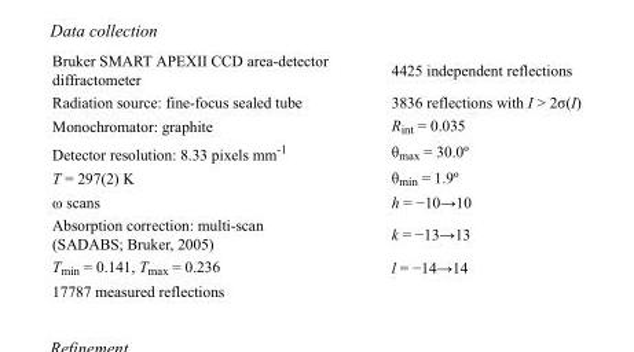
<table><tbody><tr><td>Bruker SMART APEXII CCD area-detector diffractometer</td><td>4425 independent reflections</td></tr><tr><td>Radiation source: fine-focus sealed tube</td><td>3836 reflections with I &gt; 2σ(I)</td></tr><tr><td>Monochromator: graphite</td><td>R<sub>int</sub> = 0.035</td></tr><tr><td>Detector resolution: 8.33 pixels mm<sup>-1</sup></td><td>θ<sub>max</sub> = 30.0º</td></tr><tr><td>T = 297(2) K</td><td>θ<sub>min</sub> = 1.9º</td></tr><tr><td>ω scans</td><td>h = −10→10</td></tr><tr><td>Absorption correction: multi-scan (SADABS; Bruker, 2005)</td><td>k = −13→13</td></tr><tr><td>T<sub>min</sub> = 0.141, T<sub>max</sub> = 0.236</td><td>l = −14→14</td></tr><tr><td>17787 measured reflections</td><td></td></tr></tbody></table>